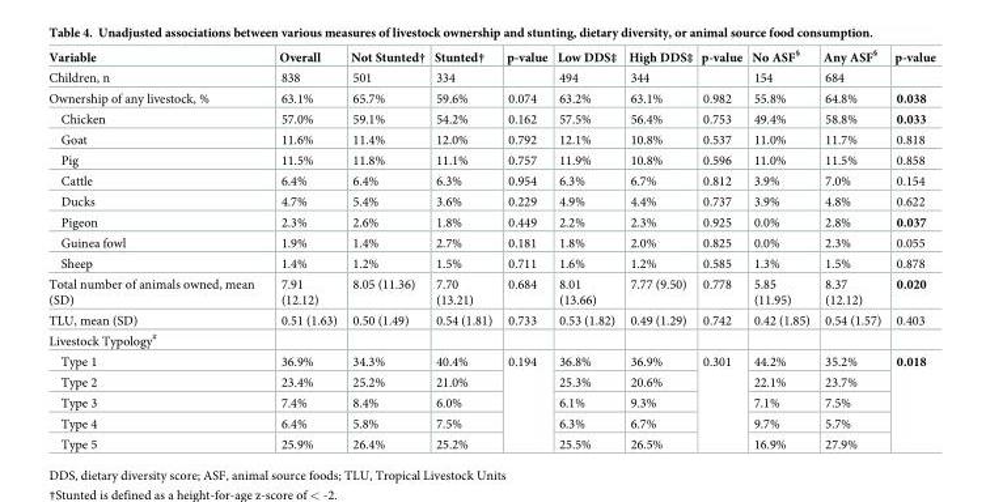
<table><thead><tr><td>Variable</td><td>Overall</td><td>Not Stunted†</td><td>Stunted†</td><td>p-value</td><td>Low DDS‡</td><td>High DDS‡</td><td>p-value</td><td>No ASF<sup>§</sup></td><td>Any ASF<sup>§</sup></td><td>p-value</td></tr></thead><tbody><tr><td>Children, n</td><td>838</td><td>501</td><td>334</td><td></td><td>494</td><td>344</td><td></td><td>154</td><td>684</td><td></td></tr><tr><td>Ownership of any livestock, %</td><td>63.1%</td><td>65.7%</td><td>59.6%</td><td>0.074</td><td>63.2%</td><td>63.1%</td><td>0.982</td><td>55.8%</td><td>64.8%</td><td>0.038</td></tr><tr><td>Chicken</td><td>57.0%</td><td>59.1%</td><td>54.2%</td><td>0.162</td><td>57.5%</td><td>56.4%</td><td>0.753</td><td>49.4%</td><td>58.8%</td><td>0.033</td></tr><tr><td>Goat</td><td>11.6%</td><td>11.4%</td><td>12.0%</td><td>0.792</td><td>12.1%</td><td>10.8%</td><td>0.537</td><td>11.0%</td><td>11.7%</td><td>0.818</td></tr><tr><td>Pig</td><td>11.5%</td><td>11.8%</td><td>11.1%</td><td>0.757</td><td>11.9%</td><td>10.8%</td><td>0.596</td><td>11.0%</td><td>11.5%</td><td>0.858</td></tr><tr><td>Cattle</td><td>6.4%</td><td>6.4%</td><td>6.3%</td><td>0.954</td><td>6.3%</td><td>6.7%</td><td>0.812</td><td>3.9%</td><td>7.0%</td><td>0.154</td></tr><tr><td>Ducks</td><td>4.7%</td><td>5.4%</td><td>3.6%</td><td>0.229</td><td>4.9%</td><td>4.4%</td><td>0.737</td><td>3.9%</td><td>4.8%</td><td>0.622</td></tr><tr><td>Pigeon</td><td>2.3%</td><td>2.6%</td><td>1.8%</td><td>0.449</td><td>2.2%</td><td>2.3%</td><td>0.925</td><td>0.0%</td><td>2.8%</td><td>0.037</td></tr><tr><td>Guinea fowl</td><td>1.9%</td><td>1.4%</td><td>2.7%</td><td>0.181</td><td>1.8%</td><td>2.0%</td><td>0.825</td><td>0.0%</td><td>2.3%</td><td>0.055</td></tr><tr><td>Sheep</td><td>1.4%</td><td>1.2%</td><td>1.5%</td><td>0.711</td><td>1.6%</td><td>1.2%</td><td>0.585</td><td>1.3%</td><td>1.5%</td><td>0.878</td></tr><tr><td>Total number of animals owned, mean (SD)</td><td>7.91 (12.12)</td><td>8.05 (11.36)</td><td>7.70 (13.21)</td><td>0.684</td><td>8.01 (13.66)</td><td>7.77 (9.50)</td><td>0.778</td><td>5.85 (11.95)</td><td>8.37 (12.12)</td><td>0.020</td></tr><tr><td>TLU, mean (SD)</td><td>0.51 (1.63)</td><td>0.50 (1.49)</td><td>0.54 (1.81)</td><td>0.733</td><td>0.53 (1.82)</td><td>0.49 (1.29)</td><td>0.742</td><td>0.42 (1.85)</td><td>0.54 (1.57)</td><td>0.403</td></tr><tr><td colspan="11">Livestock Typology<sup>#</sup></td></tr><tr><td>Type 1</td><td>36.9%</td><td>34.3%</td><td>40.4%</td><td rowspan="5">0.194</td><td>36.8%</td><td>36.9%</td><td rowspan="5">0.301</td><td>44.2%</td><td>35.2%</td><td rowspan="5">0.018</td></tr><tr><td>Type 2</td><td>23.4%</td><td>25.2%</td><td>21.0%</td><td>25.3%</td><td>20.6%</td><td>22.1%</td><td>23.7%</td></tr><tr><td>Type 3</td><td>7.4%</td><td>8.4%</td><td>6.0%</td><td>6.1%</td><td>9.3%</td><td>7.1%</td><td>7.5%</td></tr><tr><td>Type 4</td><td>6.4%</td><td>5.8%</td><td>7.5%</td><td>6.3%</td><td>6.7%</td><td>9.7%</td><td>5.7%</td></tr><tr><td>Type 5</td><td>25.9%</td><td>26.4%</td><td>25.2%</td><td>25.5%</td><td>26.5%</td><td>16.9%</td><td>27.9%</td></tr></tbody></table>